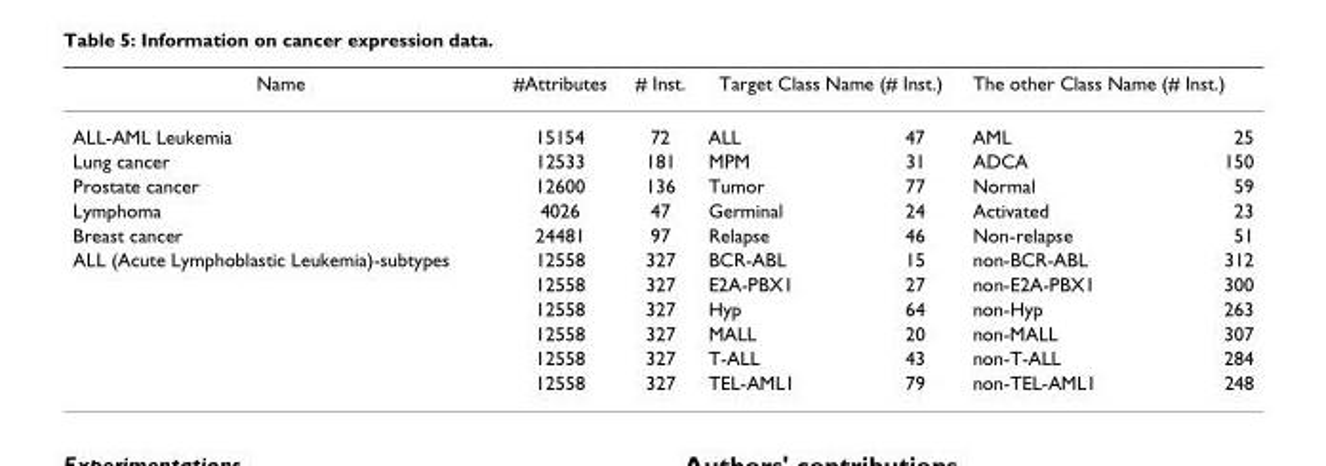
<table><thead><tr><td rowspan="2">Name ALL-AML Leukemia</td><td rowspan="2">#Attributes 15154</td><td rowspan="2"># Inst. 72</td><td colspan="2">Target Class Name (# Inst.)</td><td colspan="2">The other Class Name (# Inst.)</td></tr><tr><td>ALL</td><td>47</td><td>AML</td><td>25</td></tr></thead><tbody><tr><td>Lung cancer</td><td>12533</td><td>181</td><td>MPM</td><td>31</td><td>ADCA</td><td>150</td></tr><tr><td>Prostate cancer</td><td>12600</td><td>136</td><td>Tumor</td><td>77</td><td>Normal</td><td>59</td></tr><tr><td>Lymphoma</td><td>4026</td><td>47</td><td>Germinal</td><td>24</td><td>Activated</td><td>23</td></tr><tr><td>Breast cancer</td><td>24481</td><td>97</td><td>Relapse</td><td>46</td><td>Non-relapse</td><td>51</td></tr><tr><td rowspan="6">ALL (Acute Lymphoblastic Leukemia)-subtypes</td><td>12558</td><td>327</td><td>BCR-ABL</td><td>15</td><td>non-BCR-ABL</td><td>312</td></tr><tr><td>12558</td><td>327</td><td>E2A-PBX1</td><td>27</td><td>non-E2A-PBX1</td><td>300</td></tr><tr><td>12558</td><td>327</td><td>Hyp</td><td>64</td><td>non-Hyp</td><td>263</td></tr><tr><td>12558</td><td>327</td><td>MALL</td><td>20</td><td>non-MALL</td><td>307</td></tr><tr><td>12558</td><td>327</td><td>T-ALL</td><td>43</td><td>non-T-ALL</td><td>284</td></tr><tr><td>12558</td><td>327</td><td>TEL-AML1</td><td>79</td><td>non-TEL-AML1</td><td>248</td></tr></tbody></table>